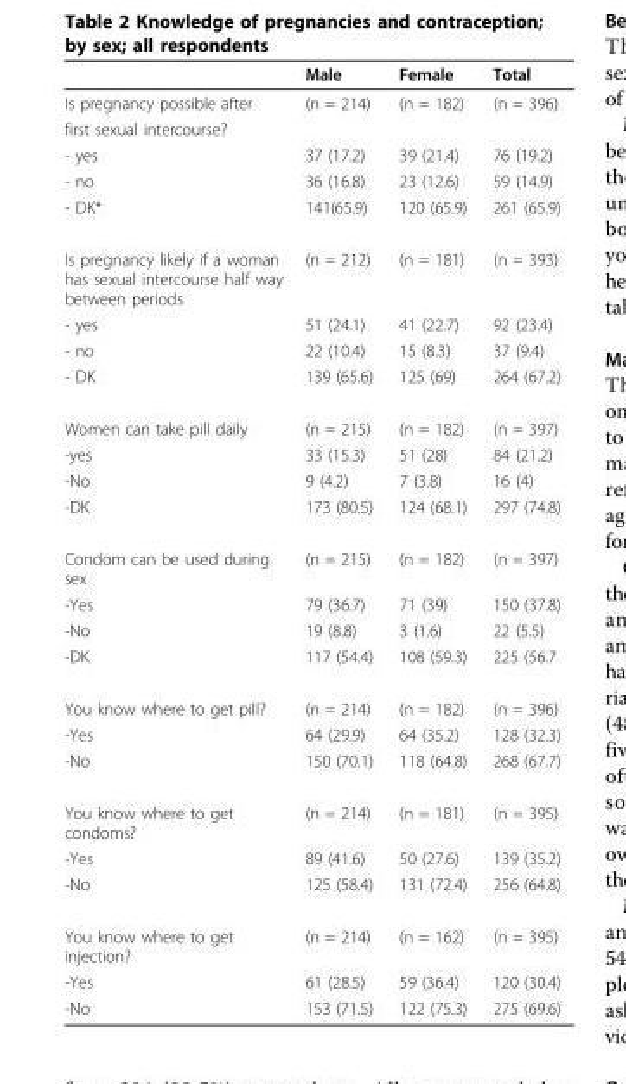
<table><thead><tr><td></td><td>Male</td><td>Female</td><td>Total</td></tr></thead><tbody><tr><td>Is pregnancy possible after</td><td>(n = 214)</td><td>(n = 182)</td><td>(n = 396)</td></tr><tr><td colspan="4">first sexual intercourse?</td></tr><tr><td>- yes</td><td>37 (17.2)</td><td>39 (21.4)</td><td>76 (19.2)</td></tr><tr><td>- no</td><td>36 (16.8)</td><td>23 (12.6)</td><td>59 (14.9)</td></tr><tr><td>- DK*</td><td>141(65.9)</td><td>120 (65.9)</td><td>261 (65.9)</td></tr><tr><td>Is pregnancy likely if a woman has sexual intercourse half way between periods</td><td>(n = 212)</td><td>(n = 181)</td><td>(n = 393)</td></tr><tr><td>- yes</td><td>51 (24.1)</td><td>41 (22.7)</td><td>92 (23.4)</td></tr><tr><td>- no</td><td>22 (10.4)</td><td>15 (8.3)</td><td>37 (9.4)</td></tr><tr><td>- DK</td><td>139 (65.6)</td><td>125 (69)</td><td>264 (67.2)</td></tr><tr><td>Women can take pill daily</td><td>(n = 215)</td><td>(n = 182)</td><td>(n = 397)</td></tr><tr><td>-yes</td><td>33 (15.3)</td><td>51 (28)</td><td>84 (21.2)</td></tr><tr><td>-No</td><td>9 (4.2)</td><td>7 (3.8)</td><td>16 (4)</td></tr><tr><td>-DK</td><td>173 (80.5)</td><td>124 (68.1)</td><td>297 (74.8)</td></tr><tr><td>Condom can be used during sex</td><td>(n = 215)</td><td>(n = 182)</td><td>(n = 397)</td></tr><tr><td>-Yes</td><td>79 (36.7)</td><td>71 (39)</td><td>150 (37.8)</td></tr><tr><td>-No</td><td>19 (8.8)</td><td>3 (1.6)</td><td>22 (5.5)</td></tr><tr><td>-DK</td><td>117 (54.4)</td><td>108 (59.3)</td><td>225 (56.7</td></tr><tr><td>You know where to get pill?</td><td>(n = 214)</td><td>(n = 182)</td><td>(n = 396)</td></tr><tr><td>-Yes</td><td>64 (29.9)</td><td>64 (35.2)</td><td>128 (32.3)</td></tr><tr><td>-No</td><td>150 (70.1)</td><td>118 (64.8)</td><td>268 (67.7)</td></tr><tr><td>You know where to get condoms?</td><td>(n = 214)</td><td>(n = 181)</td><td>(n = 395)</td></tr><tr><td>-Yes</td><td>89 (41.6)</td><td>50 (27.6)</td><td>139 (35.2)</td></tr><tr><td>-No</td><td>125 (58.4)</td><td>131 (72.4)</td><td>256 (64.8)</td></tr><tr><td>You know where to get injection?</td><td>(n = 214)</td><td>(n = 162)</td><td>(n = 395)</td></tr><tr><td>-Yes</td><td>61 (28.5)</td><td>59 (36.4)</td><td>120 (30.4)</td></tr><tr><td>-No</td><td>153 (71.5)</td><td>122 (75.3)</td><td>275 (69.6)</td></tr></tbody></table>